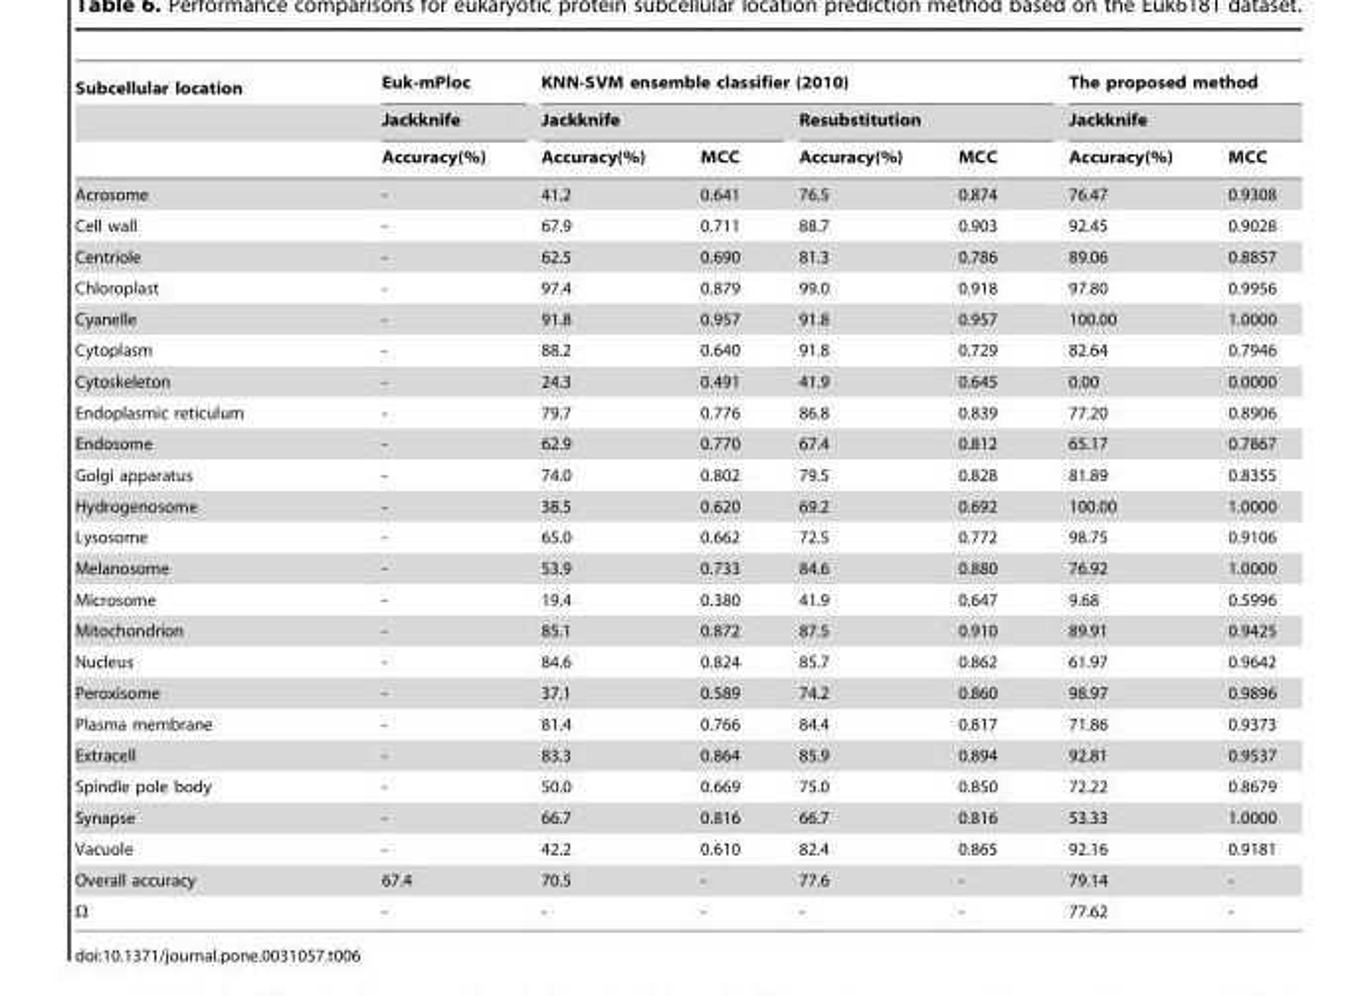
<table><thead><tr><td rowspan="3">Subcellular location</td><td rowspan="3">Euk-mPloc Jackknife Accuracy(%)</td><td colspan="4">KNN-SVM ensemble classifier (2010)</td><td rowspan="2" colspan="2">The proposed method Jackknife</td></tr><tr><td colspan="2">Jackknife</td><td colspan="2">Resubstitution</td></tr><tr><td>Accuracy(%)</td><td>MCC</td><td>Accuracy(%)</td><td>MCC</td><td>Accuracy(%)</td><td>MCC</td></tr></thead><tbody><tr><td>Acrosome</td><td>-</td><td>41.2</td><td>0.641</td><td>76.5</td><td>0.874</td><td>76.47</td><td>0.9308</td></tr><tr><td>Cell wall</td><td>-</td><td>67.9</td><td>0.711</td><td>88.7</td><td>0.903</td><td>92.45</td><td>0.9028</td></tr><tr><td>Centriole</td><td>-</td><td>62.5</td><td>0.690</td><td>81.3</td><td>0.786</td><td>89.06</td><td>0.8857</td></tr><tr><td>Chloroplast</td><td>-</td><td>97.4</td><td>0.879</td><td>99.0</td><td>0.918</td><td>97.80</td><td>0.9956</td></tr><tr><td>Cyanelle</td><td>-</td><td>91.8</td><td>0.957</td><td>91.8</td><td>0.957</td><td>100.00</td><td>1.0000</td></tr><tr><td>Cytoplasm</td><td>-</td><td>88.2</td><td>0.640</td><td>91.8</td><td>0.729</td><td>82.64</td><td>0.7946</td></tr><tr><td>Cytoskeleton</td><td>-</td><td>24.3</td><td>0.491</td><td>41.9</td><td>0.645</td><td>0.00</td><td>0.0000</td></tr><tr><td>Endoplasmic reticulum</td><td>-</td><td>79.7</td><td>0.776</td><td>86.8</td><td>0.839</td><td>77.20</td><td>0.8906</td></tr><tr><td>Endosome</td><td>-</td><td>62.9</td><td>0.770</td><td>67.4</td><td>0.812</td><td>65.17</td><td>0.7867</td></tr><tr><td>Golgi apparatus</td><td>-</td><td>74.0</td><td>0.802</td><td>79.5</td><td>0.828</td><td>81.89</td><td>0.8355</td></tr><tr><td>Hydrogenosome</td><td>-</td><td>38.5</td><td>0.620</td><td>69.2</td><td>0.692</td><td>100.00</td><td>1.0000</td></tr><tr><td>Lysosome</td><td>-</td><td>65.0</td><td>0.662</td><td>72.5</td><td>0.772</td><td>98.75</td><td>0.9106</td></tr><tr><td>Melanosome</td><td>-</td><td>53.9</td><td>0.733</td><td>84.6</td><td>0.880</td><td>76.92</td><td>1.0000</td></tr><tr><td>Microsome</td><td>-</td><td>19.4</td><td>0.380</td><td>41.9</td><td>0.647</td><td>9.68</td><td>0.5996</td></tr><tr><td>Mitochondrion</td><td>-</td><td>85.1</td><td>0.872</td><td>87.5</td><td>0.910</td><td>89.91</td><td>0.9425</td></tr><tr><td>Nucleus</td><td>-</td><td>84.6</td><td>0.824</td><td>85.7</td><td>0.862</td><td>61.97</td><td>0.9642</td></tr><tr><td>Peroxisome</td><td>-</td><td>37.1</td><td>0.589</td><td>74.2</td><td>0.860</td><td>98.97</td><td>0.9896</td></tr><tr><td>Plasma membrane</td><td>-</td><td>81.4</td><td>0.766</td><td>84.4</td><td>0.817</td><td>71.86</td><td>0.9373</td></tr><tr><td>Extracell</td><td>-</td><td>83.3</td><td>0.864</td><td>85.9</td><td>0.894</td><td>92.81</td><td>0.9537</td></tr><tr><td>Spindle pole body</td><td>-</td><td>50.0</td><td>0.669</td><td>75.0</td><td>0.850</td><td>72.22</td><td>0.8679</td></tr><tr><td>Synapse</td><td>-</td><td>66.7</td><td>0.816</td><td>66.7</td><td>0.816</td><td>53.33</td><td>1.0000</td></tr><tr><td>Vacuole</td><td>-</td><td>42.2</td><td>0.610</td><td>82.4</td><td>0.865</td><td>92.16</td><td>0.9181</td></tr><tr><td rowspan="2">Overall accuracy V</td><td>67.4</td><td>70.5</td><td>-</td><td>77.6</td><td>-</td><td>79.14</td><td>-</td></tr><tr><td>-</td><td>-</td><td>-</td><td>-</td><td>-</td><td>77.62</td><td>-</td></tr></tbody></table>